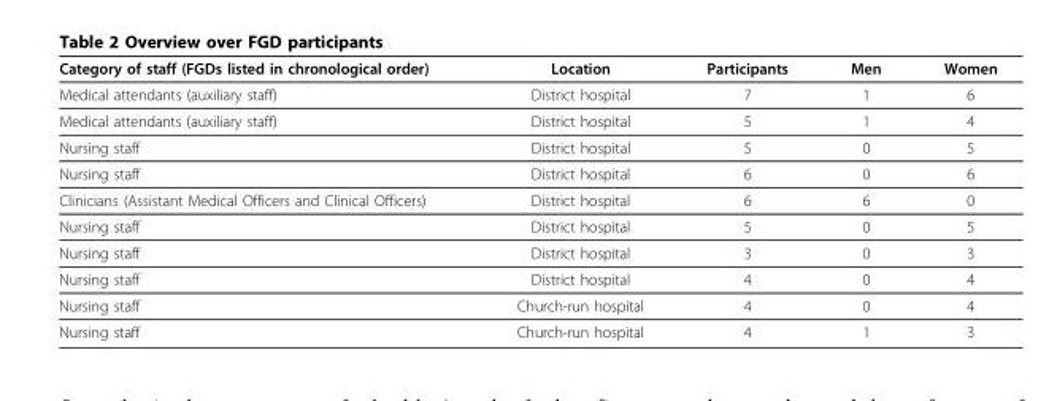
<table><thead><tr><td>Category of staff (FGDs listed in chronological order)</td><td>Location</td><td>Participants</td><td>Men</td><td>Women</td></tr></thead><tbody><tr><td>Medical attendants (auxiliary staff)</td><td>District hospital</td><td>7</td><td>1</td><td>6</td></tr><tr><td>Medical attendants (auxiliary staff)</td><td>District hospital</td><td>5</td><td>1</td><td>4</td></tr><tr><td>Nursing staff</td><td>District hospital</td><td>5</td><td>0</td><td>5</td></tr><tr><td>Nursing staff</td><td>District hospital</td><td>6</td><td>0</td><td>6</td></tr><tr><td>Clinicians (Assistant Medical Officers and Clinical Officers)</td><td>District hospital</td><td>6</td><td>6</td><td>0</td></tr><tr><td>Nursing staff</td><td>District hospital</td><td>5</td><td>0</td><td>5</td></tr><tr><td>Nursing staff</td><td>District hospital</td><td>3</td><td>0</td><td>3</td></tr><tr><td>Nursing staff</td><td>District hospital</td><td>4</td><td>0</td><td>4</td></tr><tr><td>Nursing staff</td><td>Church-run hospital</td><td>4</td><td>0</td><td>4</td></tr><tr><td>Nursing staff</td><td>Church-run hospital</td><td>4</td><td>1</td><td>3</td></tr></tbody></table>